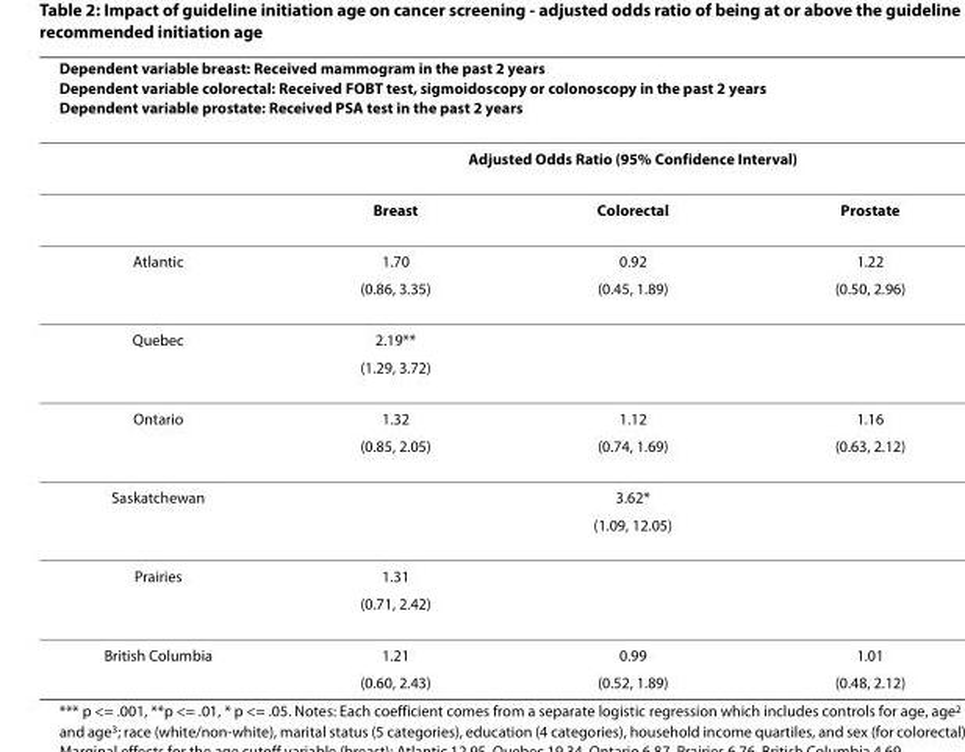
<table><thead><tr><td colspan="4">Dependent variable breast: Received mammogram in the past 2 years Dependent variable colorectal: Received FOBT test, sigmoidoscopy or colonoscopy in the past 2 years Dependent variable prostate: Received PSA test in the past 2 years</td></tr><tr><td rowspan="2"></td><td colspan="3">Adjusted Odds Ratio (95% Confidence Interval)</td></tr><tr><td>Breast</td><td>Colorectal</td><td>Prostate</td></tr></thead><tbody><tr><td rowspan="2">Atlantic</td><td>1.70</td><td>0.92</td><td>1.22</td></tr><tr><td>(0.86, 3.35)</td><td>(0.45, 1.89)</td><td>(0.50, 2.96)</td></tr><tr><td rowspan="2">Quebec</td><td>2.19**</td><td></td><td></td></tr><tr><td>(1.29, 3.72)</td><td></td><td></td></tr><tr><td rowspan="2">Ontario</td><td>1.32</td><td>1.12</td><td>1.16</td></tr><tr><td>(0.85, 2.05)</td><td>(0.74, 1.69)</td><td>(0.63, 2.12)</td></tr><tr><td rowspan="2">Saskatchewan</td><td></td><td>3.62*</td><td></td></tr><tr><td></td><td>(1.09, 12.05)</td><td></td></tr><tr><td rowspan="2">Prairies</td><td>1.31</td><td></td><td></td></tr><tr><td>(0.71, 2.42)</td><td></td><td></td></tr><tr><td rowspan="2">British Columbia</td><td>1.21</td><td>0.99</td><td>1.01</td></tr><tr><td>(0.60, 2.43)</td><td>(0.52, 1.89)</td><td>(0.48, 2.12)</td></tr></tbody></table>